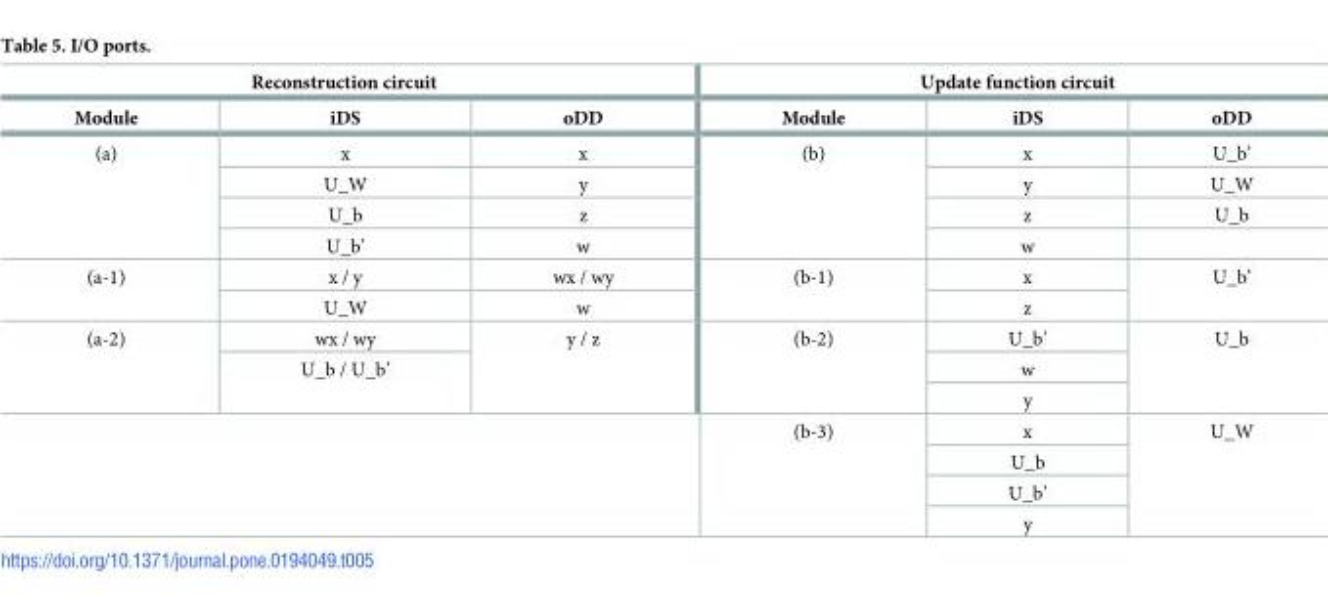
<table><thead><tr><td colspan="3">Reconstruction circuit</td><td colspan="3">Update function circuit</td></tr><tr><td>Module</td><td>iDS</td><td>oDD</td><td>Module</td><td>iDS</td><td>oDD</td></tr></thead><tbody><tr><td rowspan="4">(a)</td><td>x</td><td>x</td><td rowspan="4">(b)</td><td>x</td><td>U_b’</td></tr><tr><td>U_W</td><td>y</td><td>y</td><td>U_W</td></tr><tr><td>U_b</td><td>z</td><td>z</td><td>U_b</td></tr><tr><td>U_b’</td><td>w</td><td>w</td><td></td></tr><tr><td rowspan="2">(a-1)</td><td>x / y</td><td>wx / wy</td><td rowspan="2">(b-1)</td><td>x</td><td rowspan="2">U_b’</td></tr><tr><td>U_W</td><td>w</td><td>z</td></tr><tr><td rowspan="3">(a-2)</td><td>wx / wy</td><td rowspan="3">y / z</td><td rowspan="3">(b-2)</td><td>U_b’</td><td rowspan="3">U_b</td></tr><tr><td rowspan="2">U_b / U_b’</td><td>w</td></tr><tr><td>y</td></tr><tr><td rowspan="4" colspan="3"></td><td rowspan="4">(b-3)</td><td>x</td><td rowspan="4">U_W</td></tr><tr><td>U_b</td></tr><tr><td>U_b’</td></tr><tr><td>y</td></tr></tbody></table>